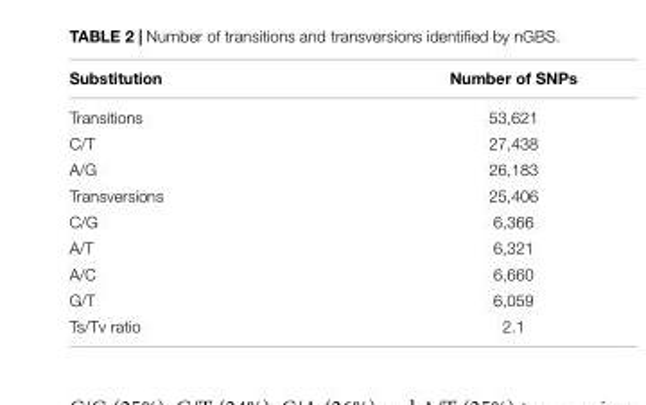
<table><thead><tr><td>Substitution</td><td>Number of SNPs</td></tr></thead><tbody><tr><td>Transitions</td><td>53,621</td></tr><tr><td>C/T</td><td>27,438</td></tr><tr><td>A/G</td><td>26,183</td></tr><tr><td>Transversions</td><td>25,406</td></tr><tr><td>C/G</td><td>6,366</td></tr><tr><td>A/T</td><td>6,321</td></tr><tr><td>A/C</td><td>6,660</td></tr><tr><td>G/T</td><td>6,059</td></tr><tr><td>Ts/Tv ratio</td><td>2.1</td></tr></tbody></table>